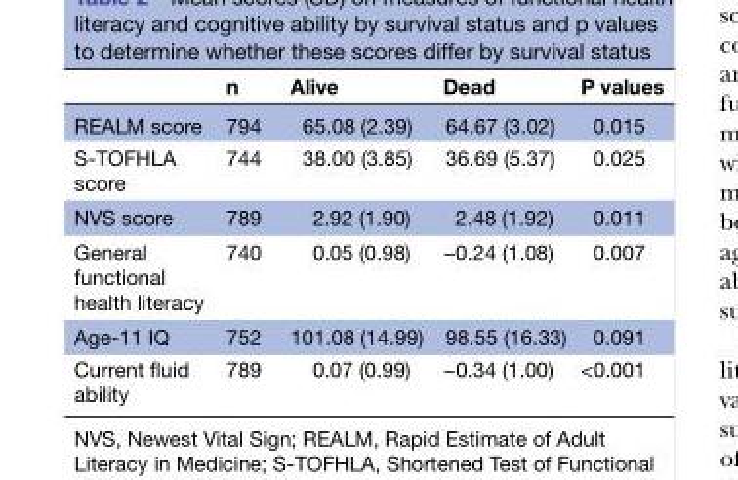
<table><thead><tr><td></td><td>n</td><td>Alive</td><td>Dead</td><td>P values</td></tr></thead><tbody><tr><td>REALM score</td><td>794</td><td>65.08 (2.39)</td><td>64.67 (3.02)</td><td>0.015</td></tr><tr><td>S-TOFHLA score</td><td>744</td><td>38.00 (3.85)</td><td>36.69 (5.37)</td><td>0.025</td></tr><tr><td>NVS score</td><td>789</td><td>2.92 (1.90)</td><td>2.48 (1.92)</td><td>0.011</td></tr><tr><td>General functional health literacy</td><td>740</td><td>0.05 (0.98)</td><td>−0.24 (1.08)</td><td>0.007</td></tr><tr><td>Age-11 IQ</td><td>752</td><td>101.08 (14.99)</td><td>98.55 (16.33)</td><td>0.091</td></tr><tr><td>Current fluid ability</td><td>789</td><td>0.07 (0.99)</td><td>−0.34 (1.00)</td><td>&lt;0.001</td></tr></tbody></table>